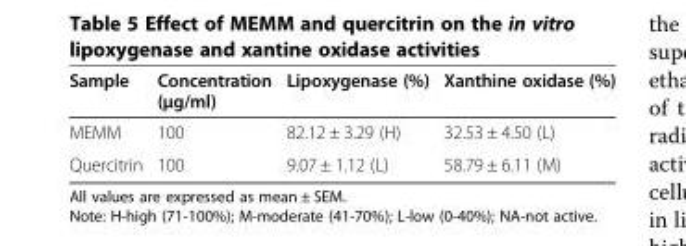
<table><thead><tr><td>Sample</td><td>Concentration (μg/ml)</td><td>Lipoxygenase (%)</td><td>Xanthine oxidase (%)</td></tr></thead><tbody><tr><td>MEMM</td><td>100</td><td>82.12 ± 3.29 (H)</td><td>32.53 ± 4.50 (L)</td></tr><tr><td>Quercitrin</td><td>100</td><td>9.07 ± 1.12 (L)</td><td>58.79 ± 6.11 (M)</td></tr></tbody></table>